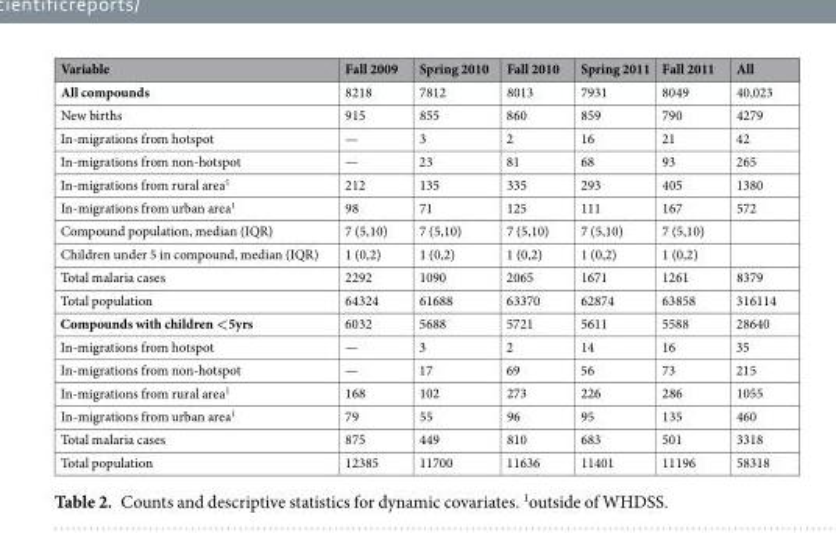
<table><thead><tr><td>Variable</td><td>Fall 2009</td><td>Spring 2010</td><td>Fall 2010</td><td>Spring 2011</td><td>Fall 2011</td><td>All</td></tr></thead><tbody><tr><td>All compounds</td><td>8218</td><td>7812</td><td>8013</td><td>7931</td><td>8049</td><td>40,023</td></tr><tr><td>New births</td><td>915</td><td>855</td><td>860</td><td>859</td><td>790</td><td>4279</td></tr><tr><td>In-migrations from hotspot</td><td>—</td><td>3</td><td>2</td><td>16</td><td>21</td><td>42</td></tr><tr><td>In-migrations from non-hotspot</td><td>—</td><td>23</td><td>81</td><td>68</td><td>93</td><td>265</td></tr><tr><td>In-migrations from rural area<sup>1</sup></td><td>212</td><td>135</td><td>335</td><td>293</td><td>405</td><td>1380</td></tr><tr><td>In-migrations from urban area<sup>1</sup></td><td>98</td><td>71</td><td>125</td><td>111</td><td>167</td><td>572</td></tr><tr><td>Compound population, median (IQR)</td><td>7 (5,10)</td><td>7 (5,10)</td><td>7 (5,10)</td><td>7 (5,10)</td><td>7 (5,10)</td><td></td></tr><tr><td>Children under 5 in compound, median (IQR)</td><td>1 (0,2)</td><td>1 (0,2)</td><td>1 (0,2)</td><td>1 (0,2)</td><td>1 (0,2)</td><td></td></tr><tr><td>Total malaria cases</td><td>2292</td><td>1090</td><td>2065</td><td>1671</td><td>1261</td><td>8379</td></tr><tr><td>Total population</td><td>64324</td><td>61688</td><td>63370</td><td>62874</td><td>63858</td><td>316114</td></tr><tr><td>Compounds with children &lt;5yrs</td><td>6032</td><td>5688</td><td>5721</td><td>5611</td><td>5588</td><td>28640</td></tr><tr><td>In-migrations from hotspot</td><td>—</td><td>3</td><td>2</td><td>14</td><td>16</td><td>35</td></tr><tr><td>In-migrations from non-hotspot</td><td>—</td><td>17</td><td>69</td><td>56</td><td>73</td><td>215</td></tr><tr><td>In-migrations from rural area<sup>1</sup></td><td>168</td><td>102</td><td>273</td><td>226</td><td>286</td><td>1055</td></tr><tr><td>In-migrations from urban area<sup>1</sup></td><td>79</td><td>55</td><td>96</td><td>95</td><td>135</td><td>460</td></tr><tr><td>Total malaria cases</td><td>875</td><td>449</td><td>810</td><td>683</td><td>501</td><td>3318</td></tr><tr><td>Total population</td><td>12385</td><td>11700</td><td>11636</td><td>11401</td><td>11196</td><td>58318</td></tr></tbody></table>